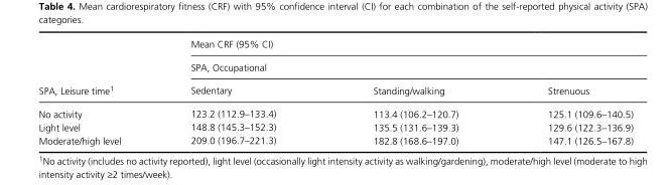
<table><thead><tr><td rowspan="3">SPA, Leisure time1</td><td rowspan="2" colspan="3">Mean CRF (95% CI) SPA, Occupational</td></tr><tr></tr><tr><td>Sedentary</td><td>Standing/walking</td><td>Strenuous</td></tr></thead><tbody><tr><td>No activity</td><td>123.2 (112.9–133.4)</td><td>113.4 (106.2–120.7)</td><td>125.1 (109.6–140.5)</td></tr><tr><td>Light level</td><td>148.8 (145.3–152.3)</td><td>135.5 (131.6–139.3)</td><td>129.6 (122.3–136.9)</td></tr><tr><td>Moderate/high level</td><td>209.0 (196.7–221.3)</td><td>182.8 (168.6–197.0)</td><td>147.1 (126.5–167.8)</td></tr></tbody></table>